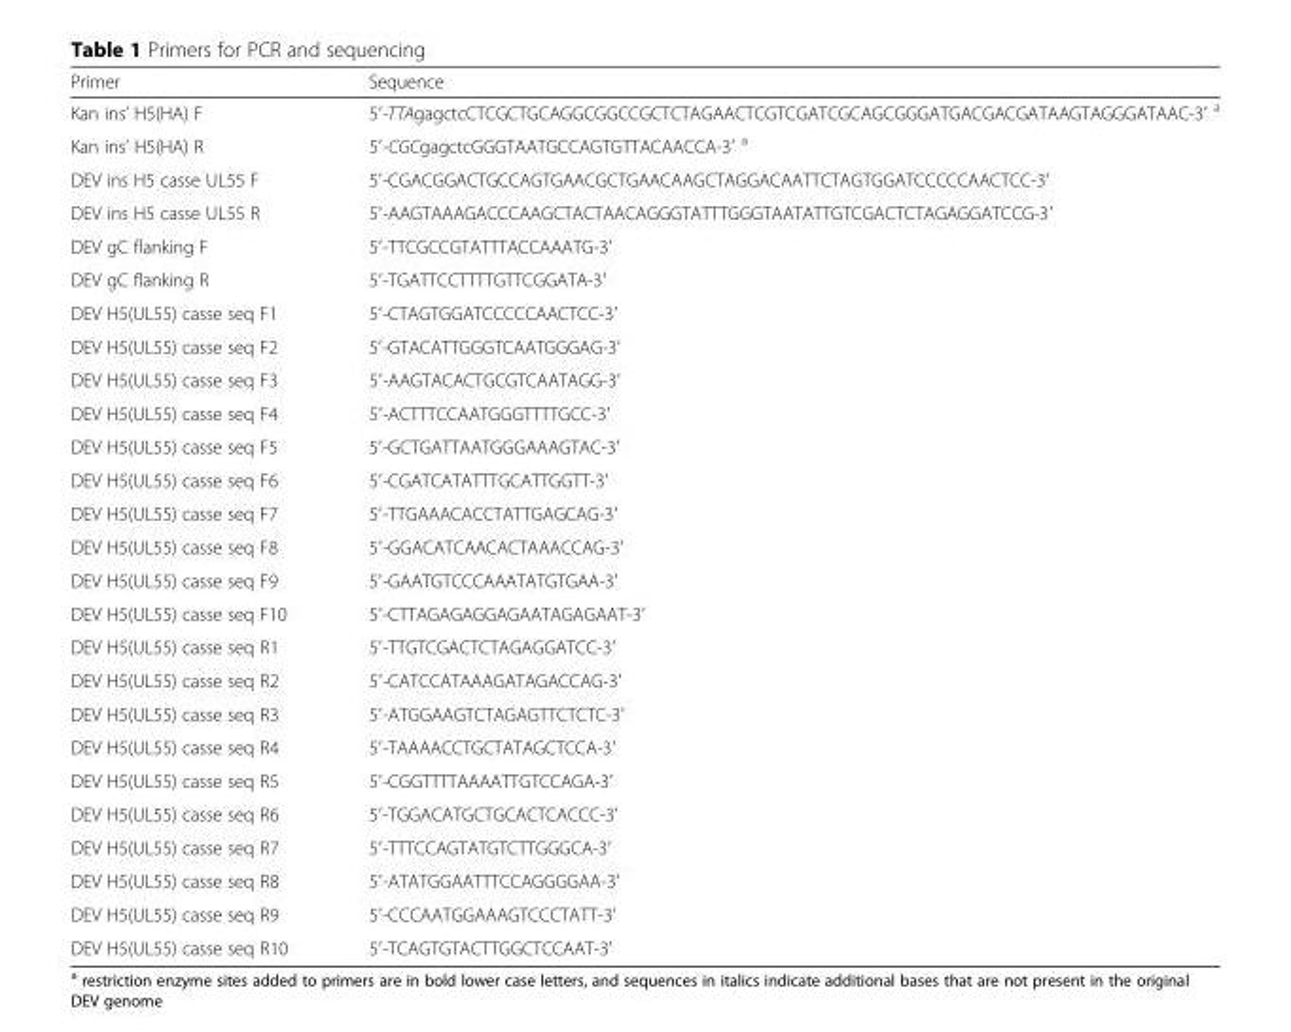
<table><thead><tr><td>Primer</td><td>Sequence</td></tr></thead><tbody><tr><td>Kan ins’ H5(HA) F</td><td>5′-TTAgagctcCTCGCTGCAGGCGGCCGCTCTAGAACTCGTCGATCGCAGCGGGATGACGACGATAAGTAGGGATAAC-3′ <sup>a</sup></td></tr><tr><td>Kan ins’ H5(HA) R</td><td>5′-CGCgagctcGGGTAATGCCAGTGTTACAACCA-3′ <sup>a</sup></td></tr><tr><td>DEV ins H5 casse UL55 F</td><td>5′-CGACGGACTGCCAGTGAACGCTGAACAAGCTAGGACAATTCTAGTGGATCCCCCAACTCC-3′</td></tr><tr><td>DEV ins H5 casse UL55 R</td><td>5′-AAGTAAAGACCCAAGCTACTAACAGGGTATTTGGGTAATATTGTCGACTCTAGAGGATCCG-3′</td></tr><tr><td>DEV gC flanking F</td><td>5′-TTCGCCGTATTTACCAAATG-3′</td></tr><tr><td>DEV gC flanking R</td><td>5′-TGATTCCTTTTGTTCGGATA-3′</td></tr><tr><td>DEV H5(UL55) casse seq F1</td><td>5′-CTAGTGGATCCCCCAACTCC-3′</td></tr><tr><td>DEV H5(UL55) casse seq F2</td><td>5′-GTACATTGGGTCAATGGGAG-3′</td></tr><tr><td>DEV H5(UL55) casse seq F3</td><td>5′-AAGTACACTGCGTCAATAGG-3′</td></tr><tr><td>DEV H5(UL55) casse seq F4</td><td>5′-ACTTTCCAATGGGTTTTGCC-3′</td></tr><tr><td>DEV H5(UL55) casse seq F5</td><td>5′-GCTGATTAATGGGAAAGTAC-3′</td></tr><tr><td>DEV H5(UL55) casse seq F6</td><td>5′-CGATCATATTTGCATTGGTT-3′</td></tr><tr><td>DEV H5(UL55) casse seq F7</td><td>5′-TTGAAACACCTATTGAGCAG-3′</td></tr><tr><td>DEV H5(UL55) casse seq F8</td><td>5′-GGACATCAACACTAAACCAG-3′</td></tr><tr><td>DEV H5(UL55) casse seq F9</td><td>5′-GAATGTCCCAAATATGTGAA-3′</td></tr><tr><td>DEV H5(UL55) casse seq F10</td><td>5′-CTTAGAGAGGAGAATAGAGAAT-3′</td></tr><tr><td>DEV H5(UL55) casse seq R1</td><td>5′-TTGTCGACTCTAGAGGATCC-3′</td></tr><tr><td>DEV H5(UL55) casse seq R2</td><td>5′-CATCCATAAAGATAGACCAG-3′</td></tr><tr><td>DEV H5(UL55) casse seq R3</td><td>5′-ATGGAAGTCTAGAGTTCTCTC-3′</td></tr><tr><td>DEV H5(UL55) casse seq R4</td><td>5′-TAAAACCTGCTATAGCTCCA-3′</td></tr><tr><td>DEV H5(UL55) casse seq R5</td><td>5′-CGGTTTTAAAATTGTCCAGA-3′</td></tr><tr><td>DEV H5(UL55) casse seq R6</td><td>5′-TGGACATGCTGCACTCACCC-3′</td></tr><tr><td>DEV H5(UL55) casse seq R7</td><td>5′-TTTCCAGTATGTCTTGGGCA-3′</td></tr><tr><td>DEV H5(UL55) casse seq R8</td><td>5′-ATATGGAATTTCCAGGGGAA-3′</td></tr><tr><td>DEV H5(UL55) casse seq R9</td><td>5′-CCCAATGGAAAGTCCCTATT-3′</td></tr><tr><td>DEV H5(UL55) casse seq R10</td><td>5′-TCAGTGTACTTGGCTCCAAT-3′</td></tr></tbody></table>